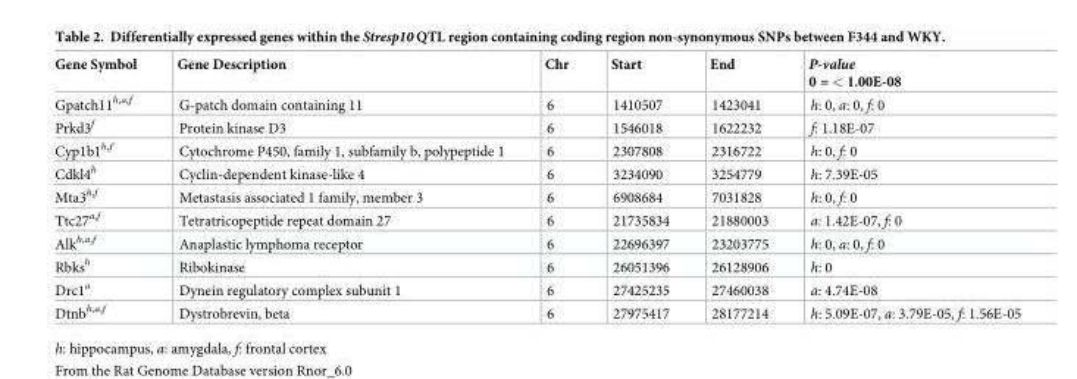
<table><thead><tr><td>Gene Symbol</td><td>Gene Description</td><td>Chr</td><td>Start</td><td>End</td><td>P-value 0 = &lt; 1.00E-08</td></tr></thead><tbody><tr><td>Gpatch11<sup>h,a,f</sup></td><td>G-patch domain containing 11</td><td>6</td><td>1410507</td><td>1423041</td><td>h: 0, a: 0, f: 0</td></tr><tr><td>Prkd3<sup>f</sup></td><td>Protein kinase D3</td><td>6</td><td>1546018</td><td>1622232</td><td>f: 1.18E-07</td></tr><tr><td>Cyp1b1<sup>h,f</sup></td><td>Cytochrome P450, family 1, subfamily b, polypeptide 1</td><td>6</td><td>2307808</td><td>2316722</td><td>h: 0, f: 0</td></tr><tr><td>Cdkl4<sup>h</sup></td><td>Cyclin-dependent kinase-like 4</td><td>6</td><td>3234090</td><td>3254779</td><td>h: 7.39E-05</td></tr><tr><td>Mta3<sup>h,f</sup></td><td>Metastasis associated 1 family, member 3</td><td>6</td><td>6908684</td><td>7031828</td><td>h: 0, f: 0</td></tr><tr><td>Ttc27<sup>a,f</sup></td><td>Tetratricopeptide repeat domain 27</td><td>6</td><td>21735834</td><td>21880003</td><td>a: 1.42E-07, f: 0</td></tr><tr><td>Alk<sup>h,a,f</sup></td><td>Anaplastic lymphoma receptor</td><td>6</td><td>22696397</td><td>23203775</td><td>h: 0, a: 0, f: 0</td></tr><tr><td>Rbks<sup>h</sup></td><td>Ribokinase</td><td>6</td><td>26051396</td><td>26128906</td><td>h: 0</td></tr><tr><td>Drc1<sup>a</sup></td><td>Dynein regulatory complex subunit 1</td><td>6</td><td>27425235</td><td>27460038</td><td>a: 4.74E-08</td></tr><tr><td>Dtnb<sup>h,a,f</sup></td><td>Dystrobrevin, beta</td><td>6</td><td>27975417</td><td>28177214</td><td>h: 5.09E-07, a: 3.79E-05, f: 1.56E-05</td></tr></tbody></table>